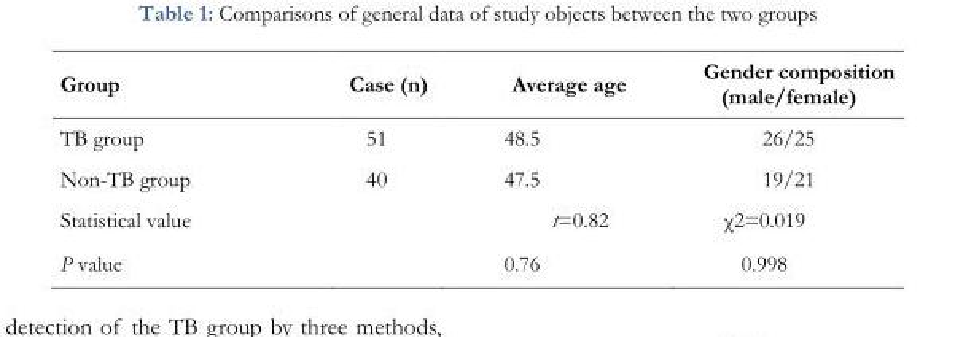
<table><thead><tr><td>Group</td><td>Case (n)</td><td>Average age</td><td>Gender composition (male/female)</td></tr></thead><tbody><tr><td>TB group</td><td>51</td><td>48.5</td><td>26/25</td></tr><tr><td>Non-TB group</td><td>40</td><td>47.5</td><td>19/21</td></tr><tr><td>Statistical value</td><td></td><td>t=0.82</td><td>χ2=0.019</td></tr><tr><td>P value</td><td></td><td>0.76</td><td>0.998</td></tr></tbody></table>